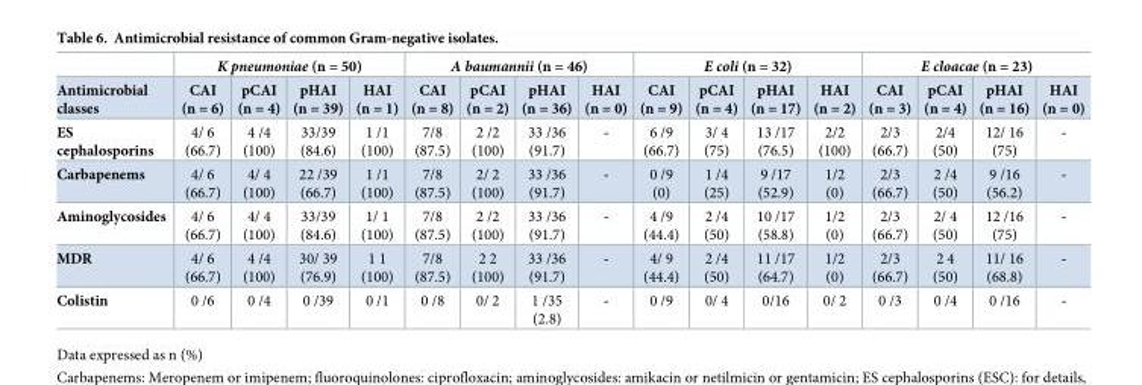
<table><thead><tr><td rowspan="2">Antimicrobial classes</td><td colspan="4">K pneumoniae (n = 50)</td><td colspan="4">A baumannii (n = 46)</td><td colspan="4">E coli (n = 32)</td><td colspan="4">E cloacae (n = 23)</td></tr><tr><td>CAI (n = 6)</td><td>pCAI (n = 4)</td><td>pHAI (n = 39)</td><td>HAI (n = 1)</td><td>CAI (n = 8)</td><td>pCAI (n = 2)</td><td>pHAI (n = 36)</td><td>HAI (n = 0)</td><td>CAI (n = 9)</td><td>pCAI (n = 4)</td><td>pHAI (n = 17)</td><td>HAI (n = 2)</td><td>CAI (n = 3)</td><td>pCAI (n = 4)</td><td>pHAI (n = 16)</td><td>HAI (n = 0)</td></tr></thead><tbody><tr><td>ES cephalosporins</td><td>4/ 6 (66.7)</td><td>4 /4 (100)</td><td>33/39 (84.6)</td><td>1 /1 (100)</td><td>7/8 (87.5)</td><td>2 /2 (100)</td><td>33 /36 (91.7)</td><td>-</td><td>6 /9 (66.7)</td><td>3/ 4 (75)</td><td>13 /17 (76.5)</td><td>2/2 (100)</td><td>2/3 (66.7)</td><td>2/4 (50)</td><td>12/ 16 (75)</td><td>-</td></tr><tr><td>Carbapenems</td><td>4/ 6 (66.7)</td><td>4/ 4 (100)</td><td>22 /39 (66.7)</td><td>1 /1 (100)</td><td>7/8 (87.5)</td><td>2/ 2 (100)</td><td>33 /36 (91.7)</td><td>-</td><td>0 /9 (0)</td><td>1 /4 (25)</td><td>9 /17 (52.9)</td><td>1/2 (0)</td><td>2/3 (66.7)</td><td>2 /4 (50)</td><td>9 /16 (56.2)</td><td>-</td></tr><tr><td>Aminoglycosides</td><td>4/ 6 (66.7)</td><td>4/ 4 (100)</td><td>33/39 (84.6)</td><td>1/ 1 (100)</td><td>7/8 (87.5)</td><td>2 /2 (100)</td><td>33 /36 (91.7)</td><td>-</td><td>4 /9 (44.4)</td><td>2 /4 (50)</td><td>10 /17 (58.8)</td><td>1/2 (0)</td><td>2/3 (66.7)</td><td>2/ 4 (50)</td><td>12 /16 (75)</td><td>-</td></tr><tr><td>MDR</td><td>4/ 6 (66.7)</td><td>4 /4 (100)</td><td>30/ 39 (76.9)</td><td>1 1 (100)</td><td>7/8 (87.5)</td><td>2 2 (100)</td><td>33 /36 (91.7)</td><td>-</td><td>4/ 9 (44.4)</td><td>2 /4 (50)</td><td>11 /17 (64.7)</td><td>1/2 (0)</td><td>2/3 (66.7)</td><td>2 4 (50)</td><td>11/ 16 (68.8)</td><td>-</td></tr><tr><td>Colistin</td><td>0 /6</td><td>0 /4</td><td>0 /39</td><td>0 /1</td><td>0 /8</td><td>0/ 2</td><td>1 /35 (2.8)</td><td>-</td><td>0 /9</td><td>0/ 4</td><td>0/16</td><td>0/ 2</td><td>0 /3</td><td>0 /4</td><td>0 /16</td><td>-</td></tr></tbody></table>